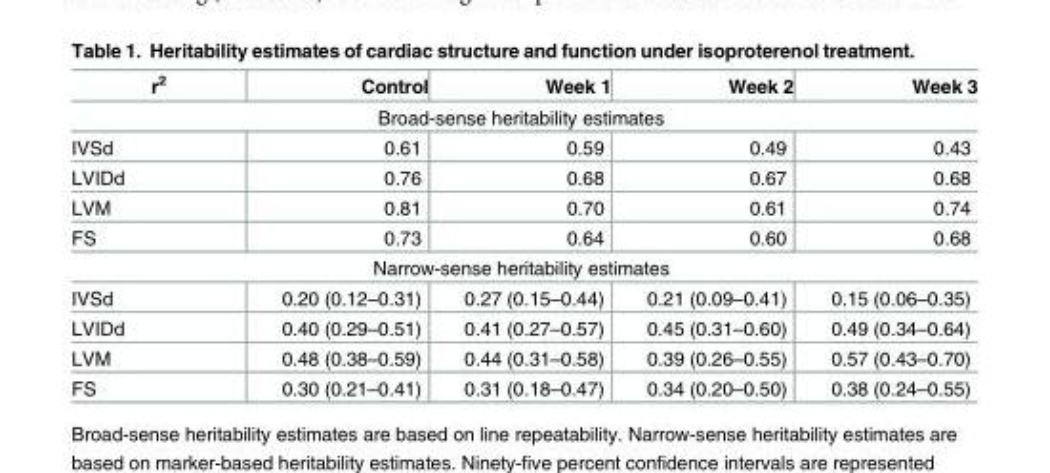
<table><thead><tr><td>r<sup>2</sup></td><td>Control</td><td>Week 1</td><td>Week 2</td><td>Week 3</td></tr></thead><tbody><tr><td colspan="5">Broad-sense heritability estimates</td></tr><tr><td>IVSd</td><td>0.61</td><td>0.59</td><td>0.49</td><td>0.43</td></tr><tr><td>LVIDd</td><td>0.76</td><td>0.68</td><td>0.67</td><td>0.68</td></tr><tr><td>LVM</td><td>0.81</td><td>0.70</td><td>0.61</td><td>0.74</td></tr><tr><td>FS</td><td>0.73</td><td>0.64</td><td>0.60</td><td>0.68</td></tr><tr><td colspan="5">Narrow-sense heritability estimates</td></tr><tr><td>IVSd</td><td>0.20 (0.12–0.31)</td><td>0.27 (0.15–0.44)</td><td>0.21 (0.09–0.41)</td><td>0.15 (0.06–0.35)</td></tr><tr><td>LVIDd</td><td>0.40 (0.29–0.51)</td><td>0.41 (0.27–0.57)</td><td>0.45 (0.31–0.60)</td><td>0.49 (0.34–0.64)</td></tr><tr><td>LVM</td><td>0.48 (0.38–0.59)</td><td>0.44 (0.31–0.58)</td><td>0.39 (0.26–0.55)</td><td>0.57 (0.43–0.70)</td></tr><tr><td>FS</td><td>0.30 (0.21–0.41)</td><td>0.31 (0.18–0.47)</td><td>0.34 (0.20–0.50)</td><td>0.38 (0.24–0.55)</td></tr></tbody></table>